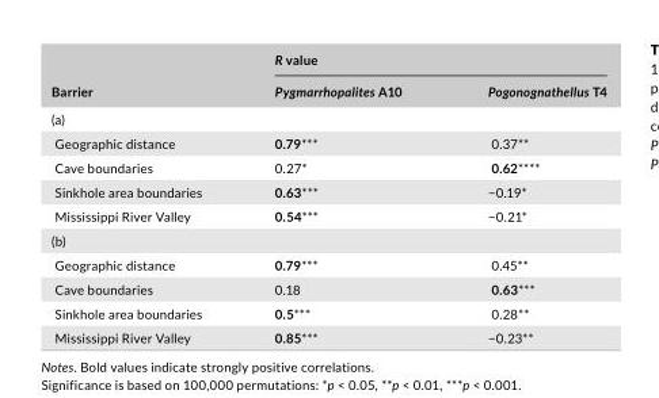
<table><thead><tr><td rowspan="2">Barrier</td><td colspan="2">R value</td></tr><tr><td>Pygmarrhopalites A10</td><td>Pogonognathellus T4</td></tr></thead><tbody><tr><td colspan="3">(a)</td></tr><tr><td>Geographic distance</td><td>0.79***</td><td>0.37**</td></tr><tr><td>Cave boundaries</td><td>0.27*</td><td>0.62****</td></tr><tr><td>Sinkhole area boundaries</td><td>0.63***</td><td>−0.19*</td></tr><tr><td>Mississippi River Valley</td><td>0.54***</td><td>−0.21*</td></tr><tr><td colspan="3">(b)</td></tr><tr><td>Geographic distance</td><td>0.79***</td><td>0.45**</td></tr><tr><td>Cave boundaries</td><td>0.18</td><td>0.63***</td></tr><tr><td>Sinkhole area boundaries</td><td>0.5***</td><td>0.28**</td></tr><tr><td>Mississippi River Valley</td><td>0.85***</td><td>−0.23**</td></tr></tbody></table>